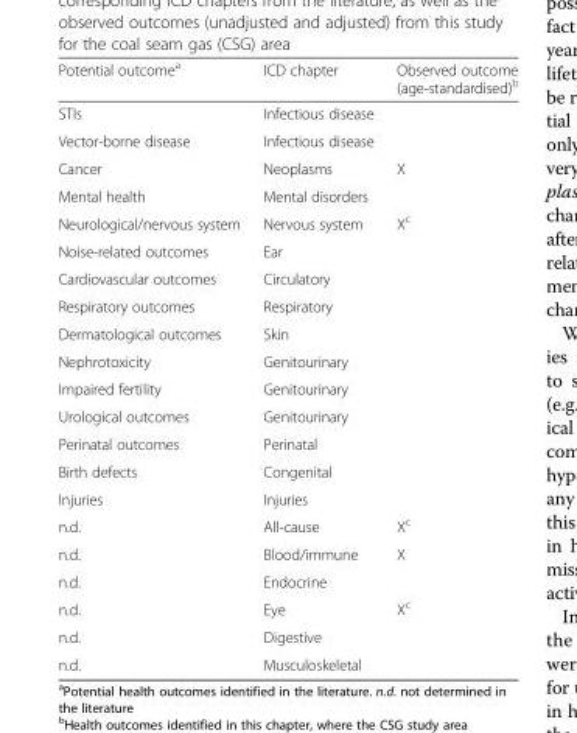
<table><thead><tr><td>Potential outcome<sup>a</sup></td><td>ICD chapter</td><td>Observed outcome (age-standardised)<sup>b</sup></td></tr></thead><tbody><tr><td>STIs</td><td>Infectious disease</td><td></td></tr><tr><td>Vector-borne disease</td><td>Infectious disease</td><td></td></tr><tr><td>Cancer</td><td>Neoplasms</td><td>X</td></tr><tr><td>Mental health</td><td>Mental disorders</td><td></td></tr><tr><td>Neurological/nervous system</td><td>Nervous system</td><td>X<sup>c</sup></td></tr><tr><td>Noise-related outcomes</td><td>Ear</td><td></td></tr><tr><td>Cardiovascular outcomes</td><td>Circulatory</td><td></td></tr><tr><td>Respiratory outcomes</td><td>Respiratory</td><td></td></tr><tr><td>Dermatological outcomes</td><td>Skin</td><td></td></tr><tr><td>Nephrotoxicity</td><td>Genitourinary</td><td></td></tr><tr><td>Impaired fertility</td><td>Genitourinary</td><td></td></tr><tr><td>Urological outcomes</td><td>Genitourinary</td><td></td></tr><tr><td>Perinatal outcomes</td><td>Perinatal</td><td></td></tr><tr><td>Birth defects</td><td>Congenital</td><td></td></tr><tr><td>Injuries</td><td>Injuries</td><td></td></tr><tr><td>n.d.</td><td>All-cause</td><td>X<sup>c</sup></td></tr><tr><td>n.d.</td><td>Blood/immune</td><td>X</td></tr><tr><td>n.d.</td><td>Endocrine</td><td></td></tr><tr><td>n.d.</td><td>Eye</td><td>X<sup>c</sup></td></tr><tr><td>n.d.</td><td>Digestive</td><td></td></tr><tr><td>n.d.</td><td>Musculoskeletal</td><td></td></tr></tbody></table>